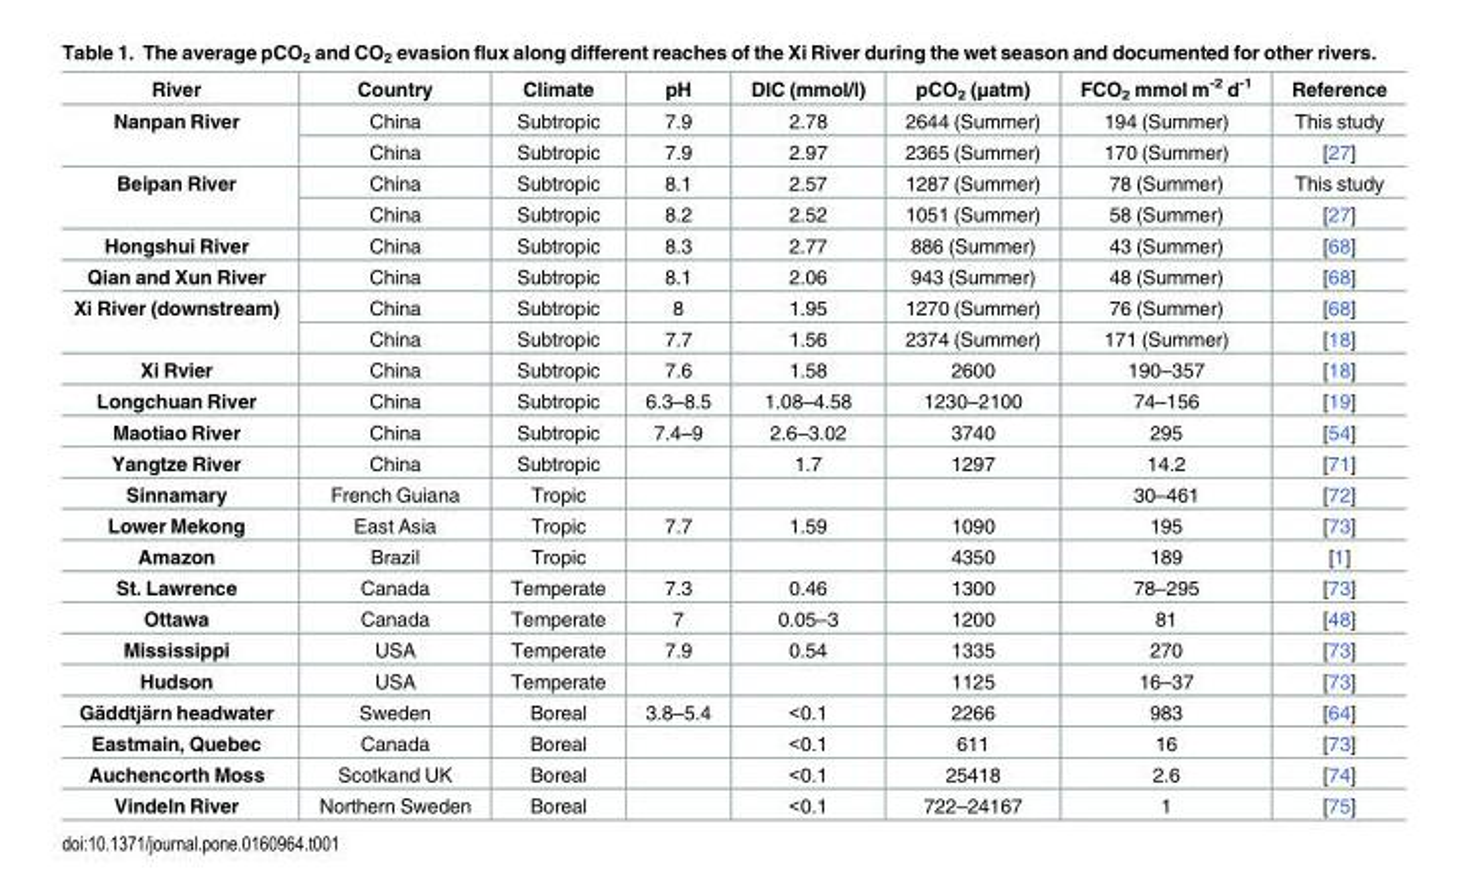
<table><thead><tr><td>River</td><td>Country</td><td>Climate</td><td>pH</td><td>DIC (mmol/l)</td><td>pCO<sub>2</sub> (μatm)</td><td>FCO<sub>2</sub> mmol m<sup>-2</sup> d<sup>-1</sup></td><td>Reference</td></tr></thead><tbody><tr><td rowspan="2">Nanpan River</td><td>China</td><td>Subtropic</td><td>7.9</td><td>2.78</td><td>2644 (Summer)</td><td>194 (Summer)</td><td>This study</td></tr><tr><td>China</td><td>Subtropic</td><td>7.9</td><td>2.97</td><td>2365 (Summer)</td><td>170 (Summer)</td><td>[27]</td></tr><tr><td rowspan="2">Beipan River</td><td>China</td><td>Subtropic</td><td>8.1</td><td>2.57</td><td>1287 (Summer)</td><td>78 (Summer)</td><td>This study</td></tr><tr><td>China</td><td>Subtropic</td><td>8.2</td><td>2.52</td><td>1051 (Summer)</td><td>58 (Summer)</td><td>[27]</td></tr><tr><td>Hongshui River</td><td>China</td><td>Subtropic</td><td>8.3</td><td>2.77</td><td>886 (Summer)</td><td>43 (Summer)</td><td>[68]</td></tr><tr><td>Qian and Xun River</td><td>China</td><td>Subtropic</td><td>8.1</td><td>2.06</td><td>943 (Summer)</td><td>48 (Summer)</td><td>[68]</td></tr><tr><td rowspan="2">Xi River (downstream)</td><td>China</td><td>Subtropic</td><td>8</td><td>1.95</td><td>1270 (Summer)</td><td>76 (Summer)</td><td>[68]</td></tr><tr><td>China</td><td>Subtropic</td><td>7.7</td><td>1.56</td><td>2374 (Summer)</td><td>171 (Summer)</td><td>[18]</td></tr><tr><td>Xi Rvier</td><td>China</td><td>Subtropic</td><td>7.6</td><td>1.58</td><td>2600</td><td>190–357</td><td>[18]</td></tr><tr><td>Longchuan River</td><td>China</td><td>Subtropic</td><td>6.3–8.5</td><td>1.08–4.58</td><td>1230–2100</td><td>74–156</td><td>[19]</td></tr><tr><td>Maotiao River</td><td>China</td><td>Subtropic</td><td>7.4–9</td><td>2.6–3.02</td><td>3740</td><td>295</td><td>[54]</td></tr><tr><td>Yangtze River</td><td>China</td><td>Subtropic</td><td></td><td>1.7</td><td>1297</td><td>14.2</td><td>[71]</td></tr><tr><td>Sinnamary</td><td>French Guiana</td><td>Tropic</td><td></td><td></td><td></td><td>30–461</td><td>[72]</td></tr><tr><td>Lower Mekong</td><td>East Asia</td><td>Tropic</td><td>7.7</td><td>1.59</td><td>1090</td><td>195</td><td>[73]</td></tr><tr><td>Amazon</td><td>Brazil</td><td>Tropic</td><td></td><td></td><td>4350</td><td>189</td><td>[1]</td></tr><tr><td>St. Lawrence</td><td>Canada</td><td>Temperate</td><td>7.3</td><td>0.46</td><td>1300</td><td>78–295</td><td>[73]</td></tr><tr><td>Ottawa</td><td>Canada</td><td>Temperate</td><td>7</td><td>0.05–3</td><td>1200</td><td>81</td><td>[48]</td></tr><tr><td>Mississippi</td><td>USA</td><td>Temperate</td><td>7.9</td><td>0.54</td><td>1335</td><td>270</td><td>[73]</td></tr><tr><td>Hudson</td><td>USA</td><td>Temperate</td><td></td><td></td><td>1125</td><td>16–37</td><td>[73]</td></tr><tr><td>Gäddtjärn headwater</td><td>Sweden</td><td>Boreal</td><td>3.8–5.4</td><td>&lt;0.1</td><td>2266</td><td>983</td><td>[64]</td></tr><tr><td>Eastmain, Quebec</td><td>Canada</td><td>Boreal</td><td></td><td>&lt;0.1</td><td>611</td><td>16</td><td>[73]</td></tr><tr><td>Auchencorth Moss</td><td>Scotkand UK</td><td>Boreal</td><td></td><td>&lt;0.1</td><td>25418</td><td>2.6</td><td>[74]</td></tr><tr><td>Vindeln River</td><td>Northern Sweden</td><td>Boreal</td><td></td><td>&lt;0.1</td><td>722–24167</td><td>1</td><td>[75]</td></tr></tbody></table>